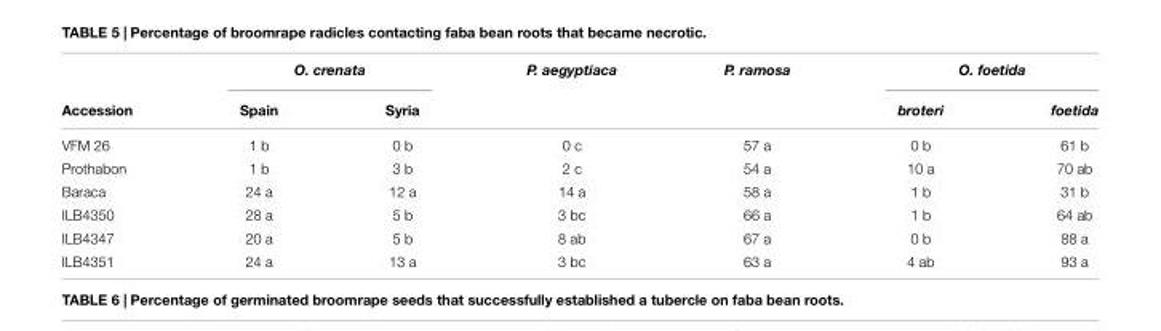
<table><thead><tr><td rowspan="2">Accession</td><td colspan="2">O. crenata</td><td rowspan="2">P. aegyptiaca</td><td rowspan="2">P. ramosa</td><td colspan="2">O. foetida</td></tr><tr><td>Spain</td><td>Syria</td><td>broteri</td><td>foetida</td></tr></thead><tbody><tr><td>VFM 26</td><td>1 b</td><td>0 b</td><td>0 c</td><td>57 a</td><td>0 b</td><td>61 b</td></tr><tr><td>Prothabon</td><td>1 b</td><td>3 b</td><td>2 c</td><td>54 a</td><td>10 a</td><td>70 ab</td></tr><tr><td>Baraca</td><td>24 a</td><td>12 a</td><td>14 a</td><td>58 a</td><td>1 b</td><td>31 b</td></tr><tr><td>ILB4350</td><td>28 a</td><td>5 b</td><td>3 bc</td><td>66 a</td><td>1 b</td><td>64 ab</td></tr><tr><td>ILB4347</td><td>20 a</td><td>5 b</td><td>8 ab</td><td>67 a</td><td>0 b</td><td>88 a</td></tr><tr><td>ILB4351</td><td>24 a</td><td>13 a</td><td>3 bc</td><td>63 a</td><td>4 ab</td><td>93 a</td></tr></tbody></table>